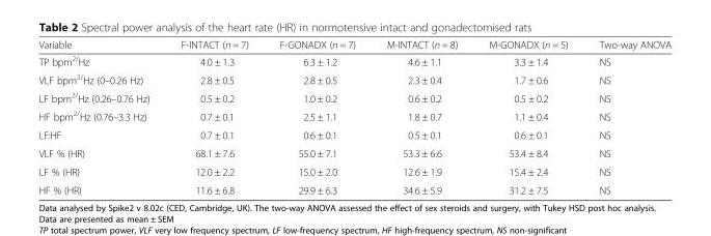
<table><thead><tr><td>Variable</td><td>F-INTACT (n = 7)</td><td>F-GONADX (n = 7)</td><td>M-INTACT (n = 8)</td><td>M-GONADX (n = 5)</td><td>Two-way ANOVA</td></tr></thead><tbody><tr><td>TP bpm<sup>2/</sup>Hz</td><td>4.0 ± 1.3</td><td>6.3 ± 1.2</td><td>4.6 ± 1.1</td><td>3.3 ± 1.4</td><td>NS</td></tr><tr><td>VLF bpm<sup>2/</sup>Hz (0–0.26 Hz)</td><td>2.8 ± 0.5</td><td>2.8 ± 0.5</td><td>2.3 ± 0.4</td><td>1.7 ± 0.6</td><td>NS</td></tr><tr><td>LF bpm<sup>2/</sup>Hz (0.26–0.76 Hz)</td><td>0.5 ± 0.2</td><td>1.0 ± 0.2</td><td>0.6 ± 0.2</td><td>0.5 ± 0.2</td><td>NS</td></tr><tr><td>HF bpm<sup>2/</sup>Hz (0.76–3.3 Hz)</td><td>0.7 ± 0.1</td><td>2.5 ± 1.1</td><td>1.8 ± 0.7</td><td>1.1 ± 0.4</td><td>NS</td></tr><tr><td>LF:HF</td><td>0.7 ± 0.1</td><td>0.6 ± 0.1</td><td>0.5 ± 0.1</td><td>0.6 ± 0.1</td><td>NS</td></tr><tr><td>VLF % (HR)</td><td>68.1 ± 7.6</td><td>55.0 ± 7.1</td><td>53.3 ± 6.6</td><td>53.4 ± 8.4</td><td>NS</td></tr><tr><td>LF % (HR)</td><td>12.0 ± 2.2</td><td>15.0 ± 2.0</td><td>12.6 ± 1.9</td><td>15.4 ± 2.4</td><td>NS</td></tr><tr><td>HF % (HR)</td><td>11.6 ± 6.8</td><td>29.9 ± 6.3</td><td>34.6 ± 5.9</td><td>31.2 ± 7.5</td><td>NS</td></tr></tbody></table>